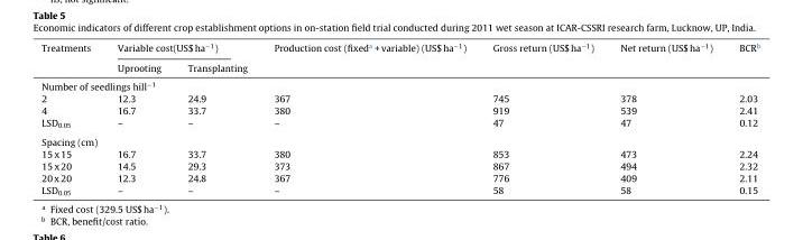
<table><thead><tr><td rowspan="2">Treatments</td><td colspan="2">Variable cost(US$ ha<sup>−1</sup>)</td><td rowspan="2">Production cost (fixed<sup>a</sup> + variable) (US$ ha<sup>−1</sup>)</td><td rowspan="2">Gross return (US$ ha<sup>−1</sup>)</td><td rowspan="2">Net return (US$ ha<sup>−1</sup>)</td><td rowspan="2">BCR<sup>b</sup></td></tr><tr><td>Uprooting</td><td>Transplanting</td></tr></thead><tbody><tr><td colspan="7">Number of seedlings hill<sup>−1</sup></td></tr><tr><td>2</td><td>12.3</td><td>24.9</td><td>367</td><td>745</td><td>378</td><td>2.03</td></tr><tr><td>4</td><td>16.7</td><td>33.7</td><td>380</td><td>919</td><td>539</td><td>2.41</td></tr><tr><td>LSD<sub>0.05</sub></td><td>–</td><td>–</td><td>–</td><td>47</td><td>47</td><td>0.12</td></tr><tr><td colspan="7">Spacing (cm)</td></tr><tr><td>15 x 15</td><td>16.7</td><td>33.7</td><td>380</td><td>853</td><td>473</td><td>2.24</td></tr><tr><td>15 x 20</td><td>14.5</td><td>29.3</td><td>373</td><td>867</td><td>494</td><td>2.32</td></tr><tr><td>20 x 20</td><td>12.3</td><td>24.8</td><td>367</td><td>776</td><td>409</td><td>2.11</td></tr><tr><td>LSD<sub>0.05</sub></td><td>–</td><td>–</td><td>–</td><td>58</td><td>58</td><td>0.15</td></tr></tbody></table>